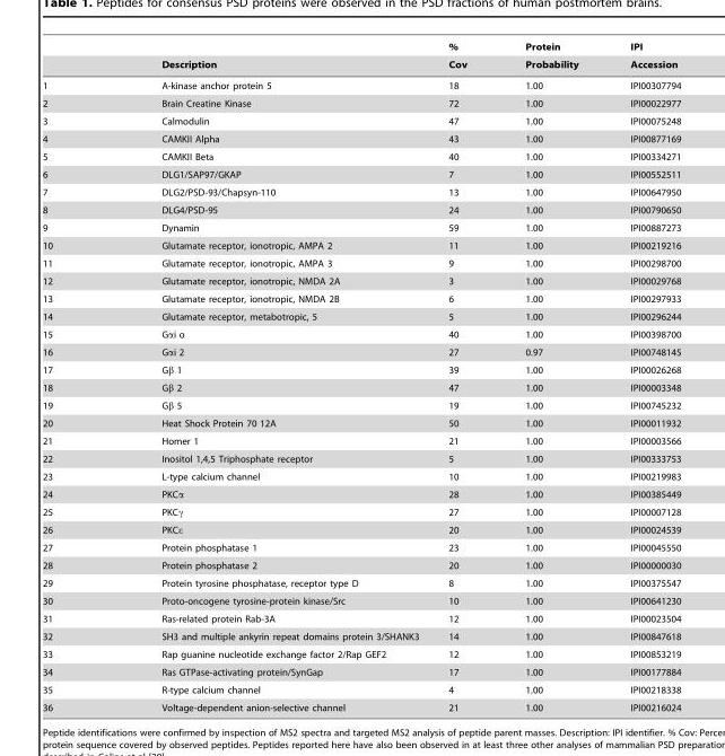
<table><thead><tr><td rowspan="2"></td><td rowspan="2">Description</td><td rowspan="2">% Cov</td><td rowspan="2">Protein Probability</td><td rowspan="2">IPI Accession</td></tr><tr></tr></thead><tbody><tr><td>1</td><td>A-kinase anchor protein 5</td><td>18</td><td>1.00</td><td>IPI00307794</td></tr><tr><td>2</td><td>Brain Creatine Kinase</td><td>72</td><td>1.00</td><td>IPI00022977</td></tr><tr><td>3</td><td>Calmodulin</td><td>47</td><td>1.00</td><td>IPI00075248</td></tr><tr><td>4</td><td>CAMKII Alpha</td><td>43</td><td>1.00</td><td>IPI00877169</td></tr><tr><td>5</td><td>CAMKII Beta</td><td>40</td><td>1.00</td><td>IPI00334271</td></tr><tr><td>6</td><td>DLG1/SAP97/GKAP</td><td>7</td><td>1.00</td><td>IPI00552511</td></tr><tr><td>7</td><td>DLG2/PSD-93/Chapsyn-110</td><td>13</td><td>1.00</td><td>IPI00647950</td></tr><tr><td>8</td><td>DLG4/PSD-95</td><td>24</td><td>1.00</td><td>IPI00790650</td></tr><tr><td>9</td><td>Dynamin</td><td>59</td><td>1.00</td><td>IPI00887273</td></tr><tr><td>10</td><td>Glutamate receptor, ionotropic, AMPA 2</td><td>11</td><td>1.00</td><td>IPI00219216</td></tr><tr><td>11</td><td>Glutamate receptor, ionotropic, AMPA 3</td><td>9</td><td>1.00</td><td>IPI00298700</td></tr><tr><td>12</td><td>Glutamate receptor, ionotropic, NMDA 2A</td><td>3</td><td>1.00</td><td>IPI00029768</td></tr><tr><td>13</td><td>Glutamate receptor, ionotropic, NMDA 2B</td><td>6</td><td>1.00</td><td>IPI00297933</td></tr><tr><td>14</td><td>Glutamate receptor, metabotropic, 5</td><td>5</td><td>1.00</td><td>IPI00296244</td></tr><tr><td>15</td><td>Gαi o</td><td>40</td><td>1.00</td><td>IPI00398700</td></tr><tr><td>16</td><td>Gαi 2</td><td>27</td><td>0.97</td><td>IPI00748145</td></tr><tr><td>17</td><td>Gβ 1</td><td>39</td><td>1.00</td><td>IPI00026268</td></tr><tr><td>18</td><td>Gβ 2</td><td>47</td><td>1.00</td><td>IPI00003348</td></tr><tr><td>19</td><td>Gβ 5</td><td>19</td><td>1.00</td><td>IPI00745232</td></tr><tr><td>20</td><td>Heat Shock Protein 70 12A</td><td>50</td><td>1.00</td><td>IPI00011932</td></tr><tr><td>21</td><td>Homer 1</td><td>21</td><td>1.00</td><td>IPI00003566</td></tr><tr><td>22</td><td>Inositol 1,4,5 Triphosphate receptor</td><td>5</td><td>1.00</td><td>IPI00333753</td></tr><tr><td>23</td><td>L-type calcium channel</td><td>10</td><td>1.00</td><td>IPI00219983</td></tr><tr><td>24</td><td>PKCα</td><td>28</td><td>1.00</td><td>IPI00385449</td></tr><tr><td>25</td><td>PKCγ</td><td>27</td><td>1.00</td><td>IPI00007128</td></tr><tr><td>26</td><td>PKCε</td><td>20</td><td>1.00</td><td>IPI00024539</td></tr><tr><td>27</td><td>Protein phosphatase 1</td><td>23</td><td>1.00</td><td>IPI00045550</td></tr><tr><td>28</td><td>Protein phosphatase 2</td><td>20</td><td>1.00</td><td>IPI00000030</td></tr><tr><td>29</td><td>Protein tyrosine phosphatase, receptor type D</td><td>8</td><td>1.00</td><td>IPI00375547</td></tr><tr><td>30</td><td>Proto-oncogene tyrosine-protein kinase/Src</td><td>10</td><td>1.00</td><td>IPI00641230</td></tr><tr><td>31</td><td>Ras-related protein Rab-3A</td><td>12</td><td>1.00</td><td>IPI00023504</td></tr><tr><td>32</td><td>SH3 and multiple ankyrin repeat domains protein 3/SHANK3</td><td>14</td><td>1.00</td><td>IPI00847618</td></tr><tr><td>33</td><td>Rap guanine nucleotide exchange factor 2/Rap GEF2</td><td>12</td><td>1.00</td><td>IPI00853219</td></tr><tr><td>34</td><td>Ras GTPase-activating protein/SynGap</td><td>17</td><td>1.00</td><td>IPI00177884</td></tr><tr><td>35</td><td>R-type calcium channel</td><td>4</td><td>1.00</td><td>IPI00218338</td></tr><tr><td>36</td><td>Voltage-dependent anion-selective channel</td><td>21</td><td>1.00</td><td>IPI00216024</td></tr></tbody></table>